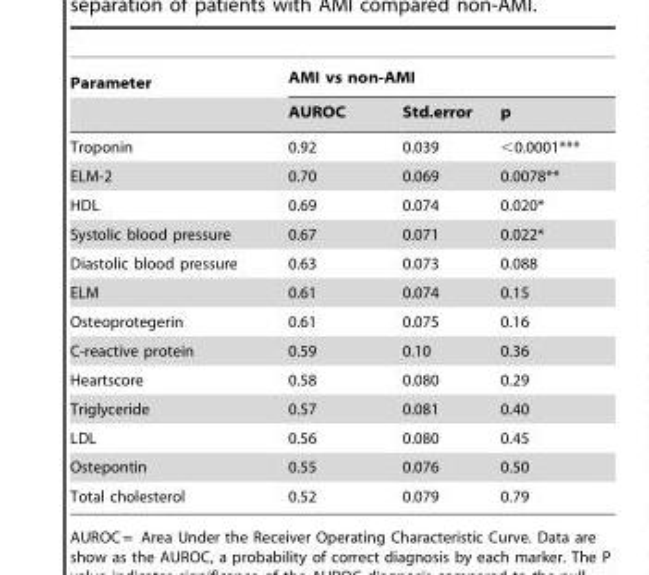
<table><thead><tr><td rowspan="2">Parameter</td><td colspan="3">AMI vs non-AMI</td></tr><tr><td>AUROC</td><td>Std.error</td><td>p</td></tr></thead><tbody><tr><td>Troponin</td><td>0.92</td><td>0.039</td><td>&lt;0.0001***</td></tr><tr><td>ELM-2</td><td>0.70</td><td>0.069</td><td>0.0078**</td></tr><tr><td>HDL</td><td>0.69</td><td>0.074</td><td>0.020*</td></tr><tr><td>Systolic blood pressure</td><td>0.67</td><td>0.071</td><td>0.022*</td></tr><tr><td>Diastolic blood pressure</td><td>0.63</td><td>0.073</td><td>0.088</td></tr><tr><td>ELM</td><td>0.61</td><td>0.074</td><td>0.15</td></tr><tr><td>Osteoprotegerin</td><td>0.61</td><td>0.075</td><td>0.16</td></tr><tr><td>C-reactive protein</td><td>0.59</td><td>0.10</td><td>0.36</td></tr><tr><td>Heartscore</td><td>0.58</td><td>0.080</td><td>0.29</td></tr><tr><td>Triglyceride</td><td>0.57</td><td>0.081</td><td>0.40</td></tr><tr><td>LDL</td><td>0.56</td><td>0.080</td><td>0.45</td></tr><tr><td>Ostepontin</td><td>0.55</td><td>0.076</td><td>0.50</td></tr><tr><td>Total cholesterol</td><td>0.52</td><td>0.079</td><td>0.79</td></tr></tbody></table>